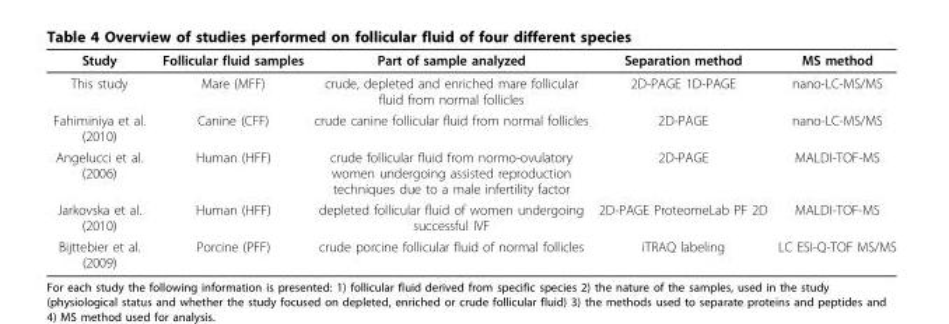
<table><thead><tr><td>Study</td><td>Follicular fluid samples</td><td>Part of sample analyzed</td><td>Separation method</td><td>MS method</td></tr></thead><tbody><tr><td>This study</td><td>Mare (MFF)</td><td>crude, depleted and enriched mare follicular fluid from normal follicles</td><td>2D-PAGE 1D-PAGE</td><td>nano-LC-MS/MS</td></tr><tr><td>Fahiminiya et al. (2010)</td><td>Canine (CFF)</td><td>crude canine follicular fluid from normal follicles</td><td>2D-PAGE</td><td>nano-LC-MS/MS</td></tr><tr><td>Angelucci et al. (2006)</td><td>Human (HFF)</td><td>crude follicular fluid from normo-ovulatory women undergoing assisted reproduction techniques due to a male infertility factor</td><td>2D-PAGE</td><td>MALDI-TOF-MS</td></tr><tr><td>Jarkovska et al. (2010)</td><td>Human (HFF)</td><td>depleted follicular fluid of women undergoing successful IVF</td><td>2D-PAGE ProteomeLab PF 2D</td><td>MALDI-TOF-MS</td></tr><tr><td>Bijttebier et al. (2009)</td><td>Porcine (PFF)</td><td>crude porcine follicular fluid of normal follicles</td><td>iTRAQ labeling</td><td>LC ESI-Q-TOF MS/MS</td></tr></tbody></table>